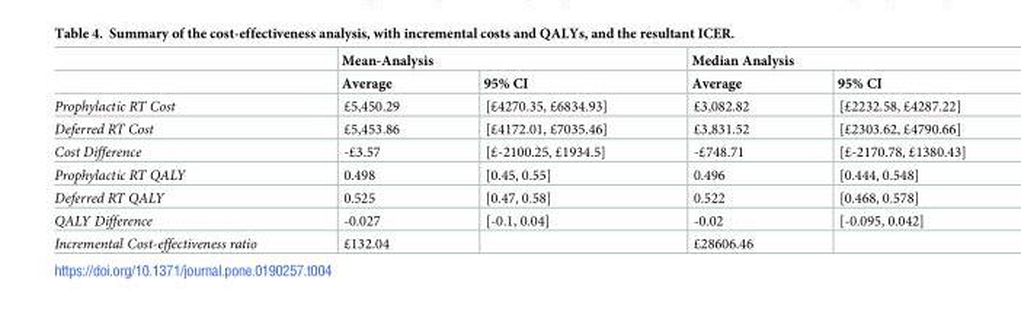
<table><thead><tr><td rowspan="2"></td><td colspan="2">Mean-Analysis</td><td colspan="2">Median Analysis</td></tr><tr><td>Average</td><td>95% CI</td><td>Average</td><td>95% CI</td></tr></thead><tbody><tr><td>Prophylactic RT Cost</td><td>£5,450.29</td><td>[£4270.35, £6834.93]</td><td>£3,082.82</td><td>[£2232.58, £4287.22]</td></tr><tr><td>Deferred RT Cost</td><td>£5,453.86</td><td>[£4172.01, £7035.46]</td><td>£3,831.52</td><td>[£2303.62, £4790.66]</td></tr><tr><td>Cost Difference</td><td>-£3.57</td><td>[£-2100.25, £1934.5]</td><td>-£748.71</td><td>[£-2170.78, £1380.43]</td></tr><tr><td>Prophylactic RT QALY</td><td>0.498</td><td>[0.45, 0.55]</td><td>0.496</td><td>[0.444, 0.548]</td></tr><tr><td>Deferred RT QALY</td><td>0.525</td><td>[0.47, 0.58]</td><td>0.522</td><td>[0.468, 0.578]</td></tr><tr><td>QALY Difference</td><td>-0.027</td><td>[-0.1, 0.04]</td><td>-0.02</td><td>[-0.095, 0.042]</td></tr><tr><td>Incremental Cost-effectiveness ratio</td><td>£132.04</td><td></td><td>£28606.46</td><td></td></tr></tbody></table>